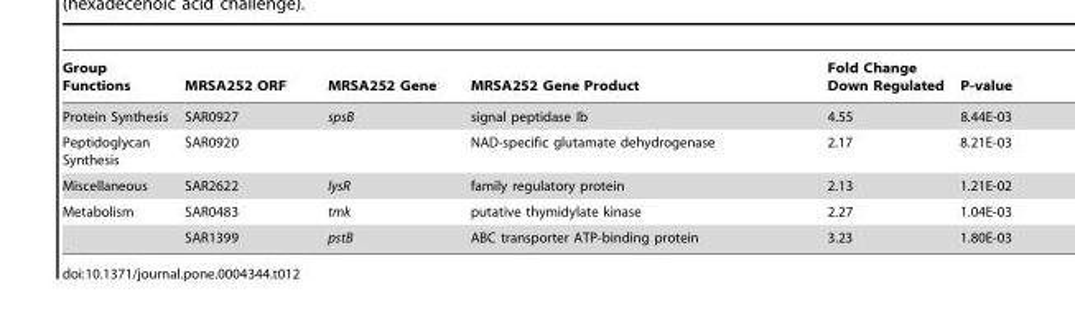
<table><thead><tr><td>Group Functions</td><td>MRSA252 ORF</td><td>MRSA252 Gene</td><td>MRSA252 Gene Product</td><td>Fold Change Down Regulated</td><td>P-value</td></tr></thead><tbody><tr><td>Protein Synthesis</td><td>SAR0927</td><td>spsB</td><td>signal peptidase Ib</td><td>4.55</td><td>8.44E-03</td></tr><tr><td>Peptidoglycan Synthesis</td><td>SAR0920</td><td></td><td>NAD-specific glutamate dehydrogenase</td><td>2.17</td><td>8.21E-03</td></tr><tr><td>Miscellaneous</td><td>SAR2622</td><td>lysR</td><td>family regulatory protein</td><td>2.13</td><td>1.21E-02</td></tr><tr><td rowspan="2">Metabolism</td><td>SAR0483</td><td>tmk</td><td>putative thymidylate kinase</td><td>2.27</td><td>1.04E-03</td></tr><tr><td>SAR1399</td><td>pstB</td><td>ABC transporter ATP-binding protein</td><td>3.23</td><td>1.80E-03</td></tr></tbody></table>